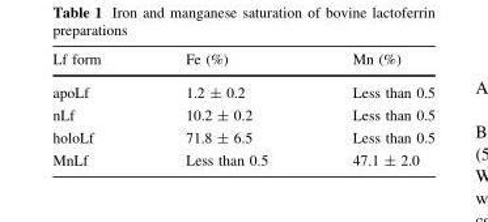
<table><thead><tr><td>Lf form</td><td>Fe (%)</td><td>Mn (%)</td></tr></thead><tbody><tr><td>apoLf</td><td>1.2 ± 0.2</td><td>Less than 0.5</td></tr><tr><td>nLf</td><td>10.2 ± 0.2</td><td>Less than 0.5</td></tr><tr><td>holoLf</td><td>71.8 ± 6.5</td><td>Less than 0.5</td></tr><tr><td>MnLf</td><td>Less than 0.5</td><td>47.1 ± 2.0</td></tr></tbody></table>